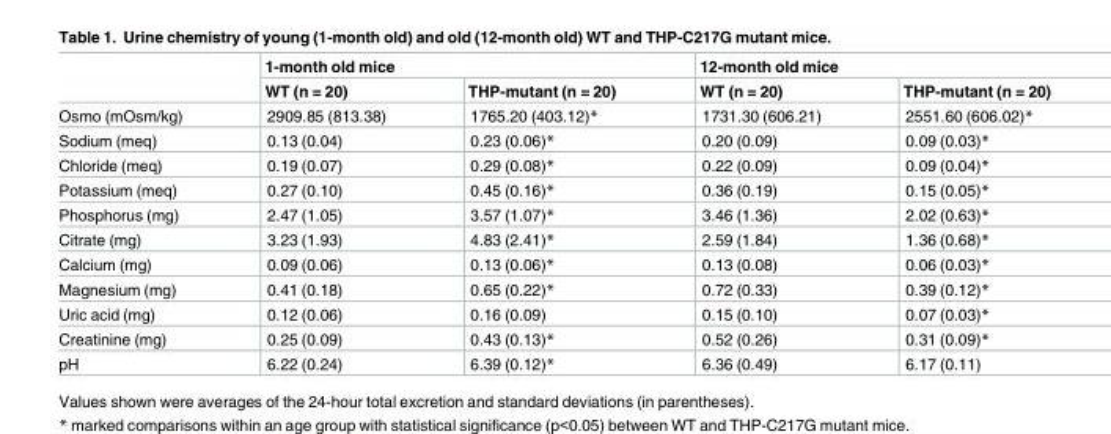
<table><thead><tr><td rowspan="2"></td><td colspan="2">1-month old mice</td><td colspan="2">12-month old mice</td></tr><tr><td>WT (n = 20)</td><td>THP-mutant (n = 20)</td><td>WT (n = 20)</td><td>THP-mutant (n = 20)</td></tr></thead><tbody><tr><td>Osmo (mOsm/kg)</td><td>2909.85 (813.38)</td><td>1765.20 (403.12)*</td><td>1731.30 (606.21)</td><td>2551.60 (606.02)*</td></tr><tr><td>Sodium (meq)</td><td>0.13 (0.04)</td><td>0.23 (0.06)*</td><td>0.20 (0.09)</td><td>0.09 (0.03)*</td></tr><tr><td>Chloride (meq)</td><td>0.19 (0.07)</td><td>0.29 (0.08)*</td><td>0.22 (0.09)</td><td>0.09 (0.04)*</td></tr><tr><td>Potassium (meq)</td><td>0.27 (0.10)</td><td>0.45 (0.16)*</td><td>0.36 (0.19)</td><td>0.15 (0.05)*</td></tr><tr><td>Phosphorus (mg)</td><td>2.47 (1.05)</td><td>3.57 (1.07)*</td><td>3.46 (1.36)</td><td>2.02 (0.63)*</td></tr><tr><td>Citrate (mg)</td><td>3.23 (1.93)</td><td>4.83 (2.41)*</td><td>2.59 (1.84)</td><td>1.36 (0.68)*</td></tr><tr><td>Calcium (mg)</td><td>0.09 (0.06)</td><td>0.13 (0.06)*</td><td>0.13 (0.08)</td><td>0.06 (0.03)*</td></tr><tr><td>Magnesium (mg)</td><td>0.41 (0.18)</td><td>0.65 (0.22)*</td><td>0.72 (0.33)</td><td>0.39 (0.12)*</td></tr><tr><td>Uric acid (mg)</td><td>0.12 (0.06)</td><td>0.16 (0.09)</td><td>0.15 (0.10)</td><td>0.07 (0.03)*</td></tr><tr><td>Creatinine (mg)</td><td>0.25 (0.09)</td><td>0.43 (0.13)*</td><td>0.52 (0.26)</td><td>0.31 (0.09)*</td></tr><tr><td>pH</td><td>6.22 (0.24)</td><td>6.39 (0.12)*</td><td>6.36 (0.49)</td><td>6.17 (0.11)</td></tr></tbody></table>